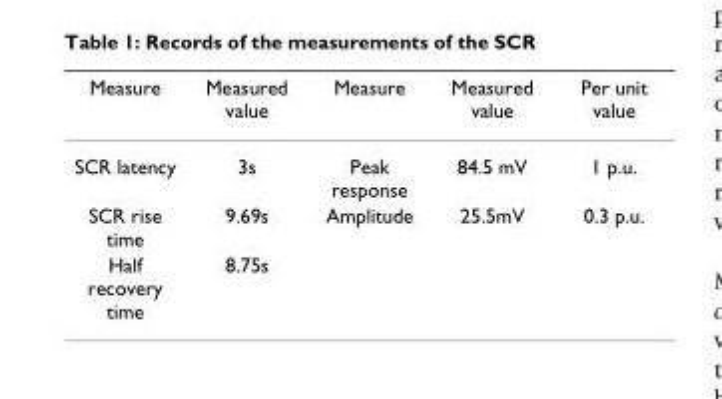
<table><thead><tr><td>Measure</td><td>Measured value</td><td>Measure</td><td>Measured value</td><td>Per unit value</td></tr></thead><tbody><tr><td>SCR latency</td><td>3s</td><td>Peak response</td><td>84.5 mV</td><td>1 p.u.</td></tr><tr><td>SCR rise time</td><td>9.69s</td><td>Amplitude</td><td>25.5mV</td><td>0.3 p.u.</td></tr><tr><td>Half recovery time</td><td>8.75s</td><td></td><td></td><td></td></tr></tbody></table>